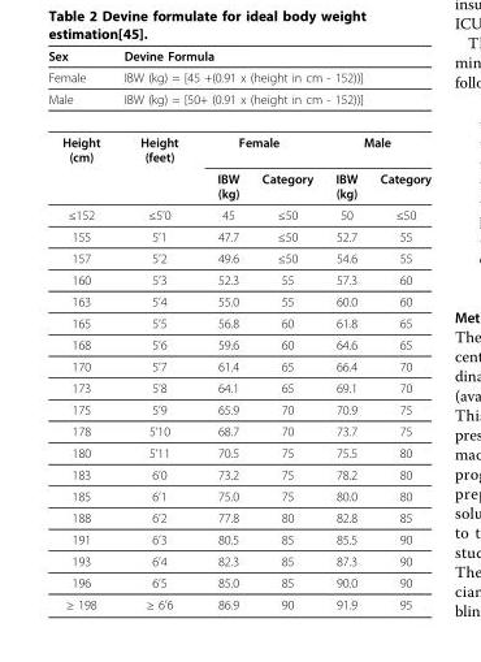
<table><thead><tr><td>Sex</td><td colspan="5">Devine Formula</td></tr></thead><tbody><tr><td>Female</td><td colspan="5">IBW (kg) = [45 +(0.91 x (height in cm - 152))]</td></tr><tr><td>Male</td><td colspan="5">IBW (kg) = [50+ (0.91 x (height in cm - 152))]</td></tr><tr><td rowspan="2">Height (cm)</td><td>Height (feet)</td><td colspan="2">Female</td><td colspan="2">Male</td></tr><tr><td></td><td>IBW (kg)</td><td>Category</td><td>IBW (kg)</td><td>Category</td></tr><tr><td>≤152</td><td>≤5’0</td><td>45</td><td>≤50</td><td>50</td><td>≤50</td></tr><tr><td>155</td><td>5’1</td><td>47.7</td><td>≤50</td><td>52.7</td><td>55</td></tr><tr><td>157</td><td>5’2</td><td>49.6</td><td>≤50</td><td>54.6</td><td>55</td></tr><tr><td>160</td><td>5’3</td><td>52.3</td><td>55</td><td>57.3</td><td>60</td></tr><tr><td>163</td><td>5’4</td><td>55.0</td><td>55</td><td>60.0</td><td>60</td></tr><tr><td>165</td><td>5’5</td><td>56.8</td><td>60</td><td>61.8</td><td>65</td></tr><tr><td>168</td><td>5’6</td><td>59.6</td><td>60</td><td>64.6</td><td>65</td></tr><tr><td>170</td><td>5’7</td><td>61.4</td><td>65</td><td>66.4</td><td>70</td></tr><tr><td>173</td><td>5’8</td><td>64.1</td><td>65</td><td>69.1</td><td>70</td></tr><tr><td>175</td><td>5’9</td><td>65.9</td><td>70</td><td>70.9</td><td>75</td></tr><tr><td>178</td><td>5’10</td><td>68.7</td><td>70</td><td>73.7</td><td>75</td></tr><tr><td>180</td><td>5’11</td><td>70.5</td><td>75</td><td>75.5</td><td>80</td></tr><tr><td>183</td><td>6’0</td><td>73.2</td><td>75</td><td>78.2</td><td>80</td></tr><tr><td>185</td><td>6’1</td><td>75.0</td><td>75</td><td>80.0</td><td>80</td></tr><tr><td>188</td><td>6’2</td><td>77.8</td><td>80</td><td>82.8</td><td>85</td></tr><tr><td>191</td><td>6’3</td><td>80.5</td><td>85</td><td>85.5</td><td>90</td></tr><tr><td>193</td><td>6’4</td><td>82.3</td><td>85</td><td>87.3</td><td>90</td></tr><tr><td>196</td><td>6’5</td><td>85.0</td><td>85</td><td>90.0</td><td>90</td></tr><tr><td>≥ 198</td><td>≥ 6’6</td><td>86.9</td><td>90</td><td>91.9</td><td>95</td></tr></tbody></table>